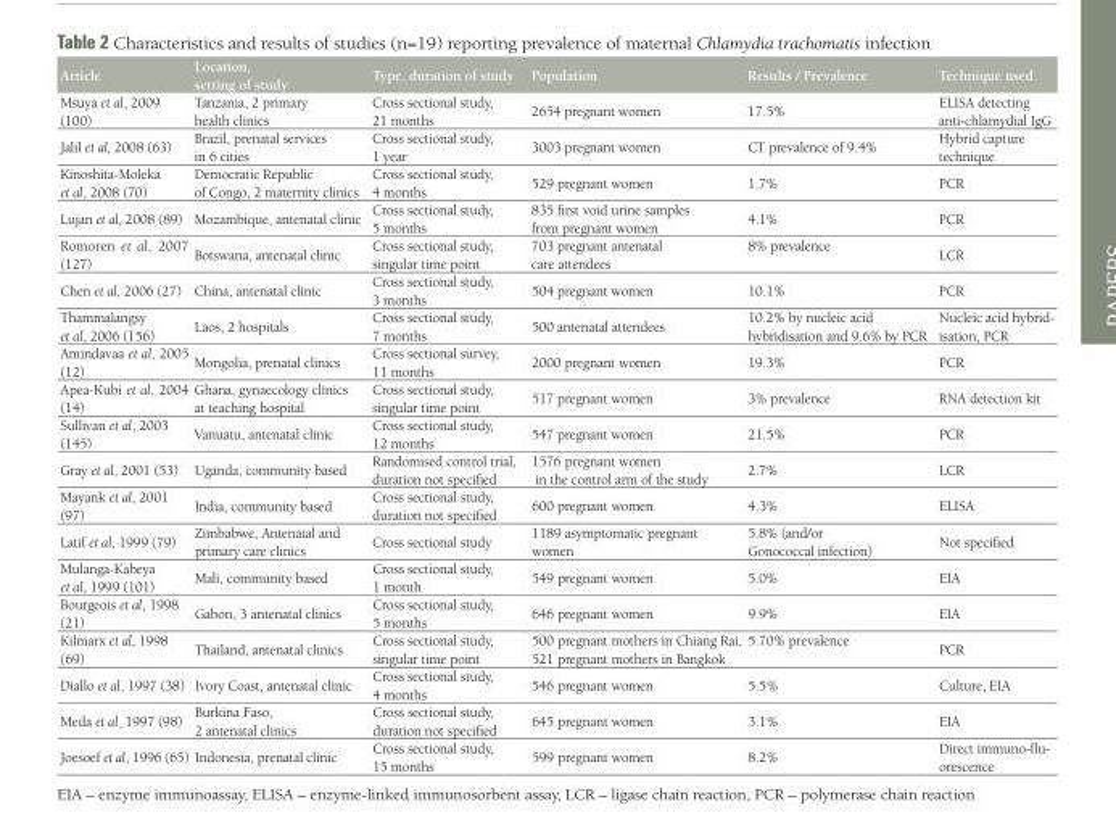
<table><thead><tr><td>Article</td><td>Location, setting of study</td><td>Type, duration of study</td><td>Population</td><td>Results / Prevalence</td><td>Technique used</td></tr></thead><tbody><tr><td>Msuya et al, 2009 (100)</td><td>Tanzania, 2 primary health clinics</td><td>Cross sectional study, 21 months</td><td>2654 pregnant women</td><td>17.5%</td><td>ELISA detecting anti-chlamydial IgG</td></tr><tr><td>Jalil et al, 2008 (63)</td><td>Brazil, prenatal services in 6 cities</td><td>Cross sectional study, 1 year</td><td>3003 pregnant women</td><td>CT prevalence of 9.4%</td><td>Hybrid capture technique</td></tr><tr><td>Kinoshita-Moleka et al, 2008 (70)</td><td>Democratic Republic of Congo, 2 maternity clinics</td><td>Cross sectional study, 4 months</td><td>529 pregnant women</td><td>1.7%</td><td>PCR</td></tr><tr><td>Lujan et al, 2008 (89)</td><td>Mozambique, antenatal clinic</td><td>Cross sectional study, 5 months</td><td>835 first void urine samples from pregnant women</td><td>4.1%</td><td>PCR</td></tr><tr><td>Romoren et al, 2007 (127)</td><td>Botswana, antenatal clinic</td><td>Cross sectional study, singular time point</td><td>703 pregnant antenatal care attendees</td><td>8% prevalence</td><td>LCR</td></tr><tr><td>Chen et al, 2006 (27)</td><td>China, antenatal clinic</td><td>Cross sectional study, 3 months</td><td>504 pregnant women</td><td>10.1%</td><td>PCR</td></tr><tr><td>Thammalangsy et al, 2006 (156)</td><td>Laos, 2 hospitals</td><td>Cross sectional study, 7 months</td><td>500 antenatal attendees</td><td>10.2% by nucleic acid hybridisation and 9.6% by PCR</td><td>Nucleic acid hybrid- isation, PCR</td></tr><tr><td>Amindavaa et al, 2005 (12)</td><td>Mongolia, prenatal clinics</td><td>Cross sectional survey, 11 months</td><td>2000 pregnant women</td><td>19.3%</td><td>PCR</td></tr><tr><td>Apea-Kubi et al, 2004 (14)</td><td>Ghana, gynaecology clinics at teaching hospital</td><td>Cross sectional study, singular time point</td><td>517 pregnant women</td><td>3% prevalence</td><td>RNA detection kit</td></tr><tr><td>Sullivan et al, 2003 (145)</td><td>Vanuatu, antenatal clinic</td><td>Cross sectional study, 12 months</td><td>547 pregnant women</td><td>21.5%</td><td>PCR</td></tr><tr><td>Gray et al, 2001 (53)</td><td>Uganda, community based</td><td>Randomised control trial, duration not specified</td><td>1576 pregnant women in the control arm of the study</td><td>2.7%</td><td>LCR</td></tr><tr><td>Mayank et al, 2001 (97)</td><td>India, community based</td><td>Cross sectional study, duration not specified</td><td>600 pregnant women</td><td>4.3%</td><td>ELISA</td></tr><tr><td>Latif et al, 1999 (79)</td><td>Zimbabwe, Antenatal and primary care clinics</td><td>Cross sectional study</td><td>1189 asymptomatic pregnant women</td><td>5.8% (and/or Gonococcal infection)</td><td>Not specified</td></tr><tr><td>Mulanga-Kabeya et al, 1999 (101)</td><td>Mali, community based</td><td>Cross sectional study, 1 month</td><td>549 pregnant women</td><td>5.0%</td><td>EIA</td></tr><tr><td>Bourgeois et al, 1998 (21)</td><td>Gabon, 3 antenatal clinics</td><td>Cross sectional study, 5 months</td><td>646 pregnant women</td><td>9.9%</td><td>EIA</td></tr><tr><td>Kilmarx et al, 1998 (69)</td><td>Thailand, antenatal clinics</td><td>Cross sectional study, singular time point</td><td>500 pregnant mothers in Chiang Rai, 521 pregnant mothers in Bangkok</td><td>5.70% prevalence</td><td>PCR</td></tr><tr><td>Diallo et al, 1997 (38)</td><td>Ivory Coast, antenatal clinic</td><td>Cross sectional study, 4 months</td><td>546 pregnant women</td><td>5.5%</td><td>Culture, EIA</td></tr><tr><td>Meda et al¸ 1997 (98)</td><td>Burkina Faso, 2 antenatal clinics</td><td>Cross sectional study, duration not specified</td><td>645 pregnant women</td><td>3.1%</td><td>EIA</td></tr><tr><td>Joesoef et al, 1996 (65)</td><td>Indonesia, prenatal clinic</td><td>Cross sectional study, 15 months</td><td>599 pregnant women</td><td>8.2%</td><td>Direct immuno-flu- orescence</td></tr></tbody></table>